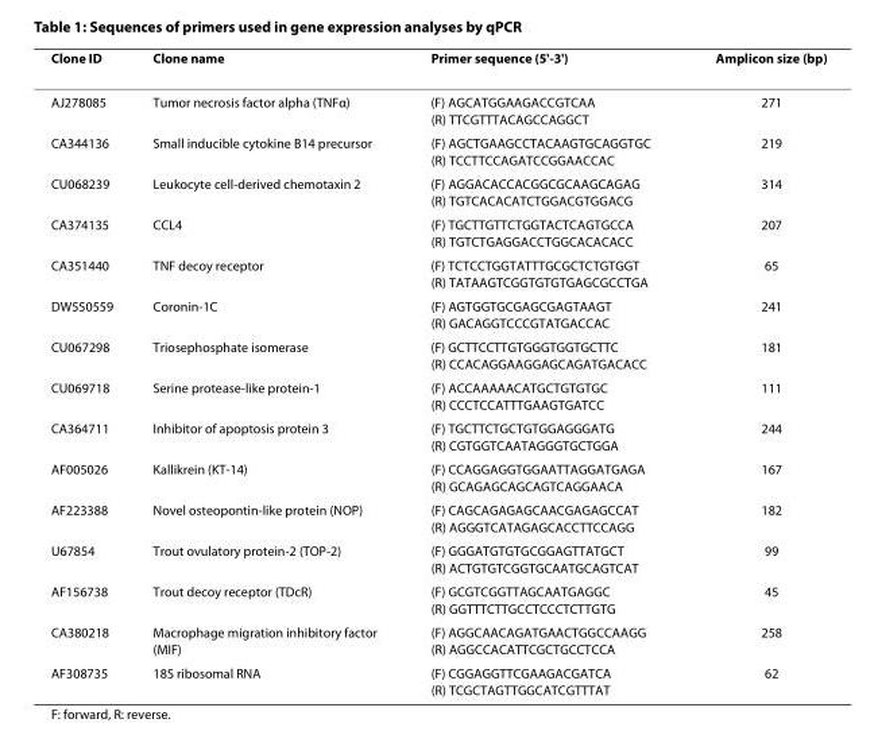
<table><thead><tr><td>Clone ID</td><td>Clone name</td><td>Primer sequence (5&#x27;-3&#x27;)</td><td>Amplicon size (bp)</td></tr></thead><tbody><tr><td>AJ278085</td><td>Tumor necrosis factor alpha (TNFα)</td><td>(F) AGCATGGAAGACCGTCAA (R) TTCGTTTACAGCCAGGCT</td><td>271</td></tr><tr><td>CA344136</td><td>Small inducible cytokine B14 precursor</td><td>(F) AGCTGAAGCCTACAAGTGCAGGTGC (R) TCCTTCCAGATCCGGAACCAC</td><td>219</td></tr><tr><td>CU068239</td><td>Leukocyte cell-derived chemotaxin 2</td><td>(F) AGGACACCACGGCGCAAGCAGAG (R) TGTCACACATCTGGACGTGGACG</td><td>314</td></tr><tr><td>CA374135</td><td>CCL4</td><td>(F) TGCTTGTTCTGGTACTCAGTGCCA (R) TGTCTGAGGACCTGGCACACACC</td><td>207</td></tr><tr><td>CA351440</td><td>TNF decoy receptor</td><td>(F) TCTCCTGGTATTTGCGCTCTGTGGT (R) TATAAGTCGGTGTGTGAGCGCCTGA</td><td>65</td></tr><tr><td>DW550559</td><td>Coronin-1C</td><td>(F) AGTGGTGCGAGCGAGTAAGT (R) GACAGGTCCCGTATGACCAC</td><td>241</td></tr><tr><td>CU067298</td><td>Triosephosphate isomerase</td><td>(F) GCTTCCTTGTGGGTGGTGCTTC (R) CCACAGGAAGGAGCAGATGACACC</td><td>181</td></tr><tr><td>CU069718</td><td>Serine protease-like protein-1</td><td>(F) ACCAAAAACATGCTGTGTGC (R) CCCTCCATTTGAAGTGATCC</td><td>111</td></tr><tr><td>CA364711</td><td>Inhibitor of apoptosis protein 3</td><td>(F) TGCTTCTGCTGTGGAGGGATG (R) CGTGGTCAATAGGGTGCTGGA</td><td>244</td></tr><tr><td>AF005026</td><td>Kallikrein (KT-14)</td><td>(F) CCAGGAGGTGGAATTAGGATGAGA (R) GCAGAGCAGCAGTCAGGAACA</td><td>167</td></tr><tr><td>AF223388</td><td>Novel osteopontin-like protein (NOP)</td><td>(F) CAGCAGAGAGCAACGAGAGCCAT (R) AGGGTCATAGAGCACCTTCCAGG</td><td>182</td></tr><tr><td>U67854</td><td>Trout ovulatory protein-2 (TOP-2)</td><td>(F) GGGATGTGTGCGGAGTTATGCT (R) ACTGTGTCGGTGCAATGCAGTCAT</td><td>99</td></tr><tr><td>AF156738</td><td>Trout decoy receptor (TDcR)</td><td>(F) GCGTCGGTTAGCAATGAGGC (R) GGTTTCTTGCCTCCCTCTTGTG</td><td>45</td></tr><tr><td>CA380218</td><td>Macrophage migration inhibitory factor (MIF)</td><td>(F) AGGCAACAGATGAACTGGCCAAGG (R) AGGCCACATTCGCTGCCTCCA</td><td>258</td></tr><tr><td>AF308735</td><td>18S ribosomal RNA</td><td>(F) CGGAGGTTCGAAGACGATCA (R) TCGCTAGTTGGCATCGTTTAT</td><td>62</td></tr></tbody></table>